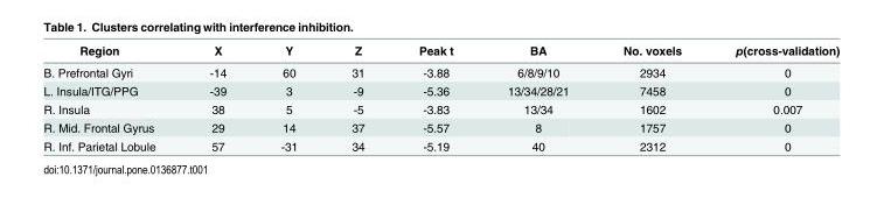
<table><thead><tr><td>Region</td><td>X</td><td>Y</td><td>Z</td><td>Peak t</td><td>BA</td><td>No. voxels</td><td>p(cross-validation)</td></tr></thead><tbody><tr><td>B. Prefrontal Gyri</td><td>-14</td><td>60</td><td>31</td><td>-3.88</td><td>6/8/9/10</td><td>2934</td><td>0</td></tr><tr><td>L. Insula/ITG/PPG</td><td>-39</td><td>3</td><td>-9</td><td>-5.36</td><td>13/34/28/21</td><td>7458</td><td>0</td></tr><tr><td>R. Insula</td><td>38</td><td>5</td><td>-5</td><td>-3.83</td><td>13/34</td><td>1602</td><td>0.007</td></tr><tr><td>R. Mid. Frontal Gyrus</td><td>29</td><td>14</td><td>37</td><td>-5.57</td><td>8</td><td>1757</td><td>0</td></tr><tr><td>R. Inf. Parietal Lobule</td><td>57</td><td>-31</td><td>34</td><td>-5.19</td><td>40</td><td>2312</td><td>0</td></tr></tbody></table>